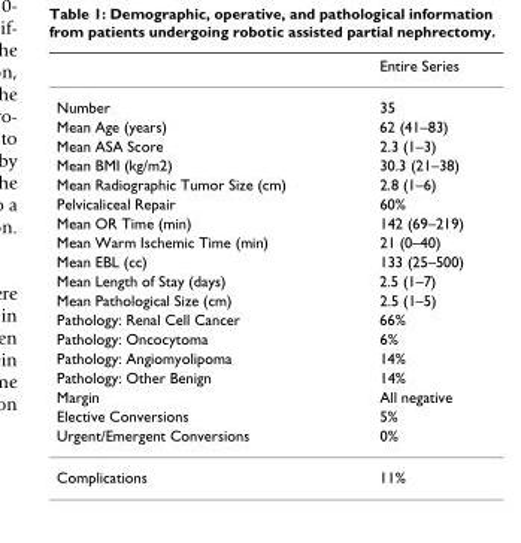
<table><thead><tr><td></td><td>Entire Series</td></tr></thead><tbody><tr><td>Number</td><td>35</td></tr><tr><td>Mean Age (years)</td><td>62 (41–83)</td></tr><tr><td>Mean ASA Score</td><td>2.3 (1–3)</td></tr><tr><td>Mean BMI (kg/m2)</td><td>30.3 (21–38)</td></tr><tr><td>Mean Radiographic Tumor Size (cm)</td><td>2.8 (1–6)</td></tr><tr><td>Pelvicaliceal Repair</td><td>60%</td></tr><tr><td>Mean OR Time (min)</td><td>142 (69–219)</td></tr><tr><td>Mean Warm Ischemic Time (min)</td><td>21 (0–40)</td></tr><tr><td>Mean EBL (cc)</td><td>133 (25–500)</td></tr><tr><td>Mean Length of Stay (days)</td><td>2.5 (1–7)</td></tr><tr><td>Mean Pathological Size (cm)</td><td>2.5 (1–5)</td></tr><tr><td>Pathology: Renal Cell Cancer</td><td>66%</td></tr><tr><td>Pathology: Oncocytoma</td><td>6%</td></tr><tr><td>Pathology: Angiomyolipoma</td><td>14%</td></tr><tr><td>Pathology: Other Benign</td><td>14%</td></tr><tr><td>Margin</td><td>All negative</td></tr><tr><td>Elective Conversions</td><td>5%</td></tr><tr><td>Urgent/Emergent Conversions</td><td>0%</td></tr><tr><td>Complications</td><td>11%</td></tr></tbody></table>